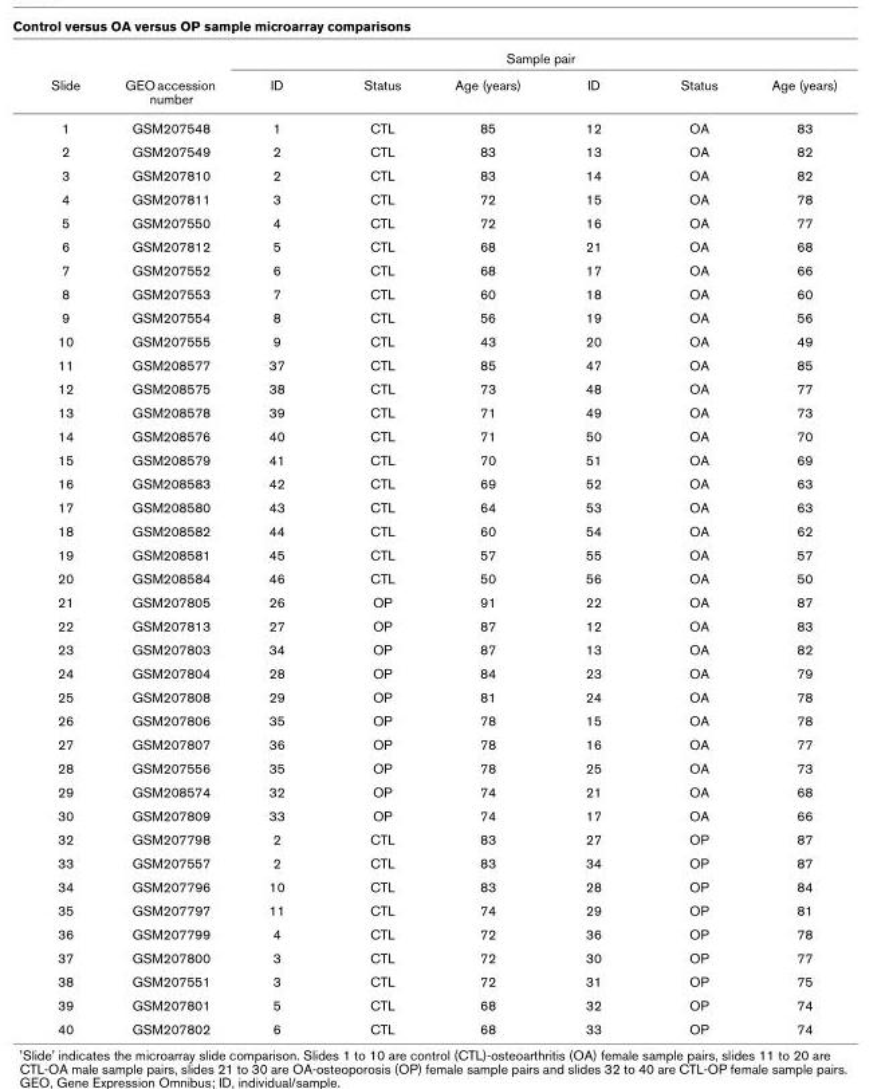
<table><thead><tr><td rowspan="2">Slide</td><td rowspan="2">GEO accession number</td><td colspan="6">Sample pair</td></tr><tr><td>ID</td><td>Status</td><td>Age (years)</td><td>ID</td><td>Status</td><td>Age (years)</td></tr></thead><tbody><tr><td>1</td><td>GSM207548</td><td>1</td><td>CTL</td><td>85</td><td>12</td><td>OA</td><td>83</td></tr><tr><td>2</td><td>GSM207549</td><td>2</td><td>CTL</td><td>83</td><td>13</td><td>OA</td><td>82</td></tr><tr><td>3</td><td>GSM207810</td><td>2</td><td>CTL</td><td>83</td><td>14</td><td>OA</td><td>82</td></tr><tr><td>4</td><td>GSM207811</td><td>3</td><td>CTL</td><td>72</td><td>15</td><td>OA</td><td>78</td></tr><tr><td>5</td><td>GSM207550</td><td>4</td><td>CTL</td><td>72</td><td>16</td><td>OA</td><td>77</td></tr><tr><td>6</td><td>GSM207812</td><td>5</td><td>CTL</td><td>68</td><td>21</td><td>OA</td><td>68</td></tr><tr><td>7</td><td>GSM207552</td><td>6</td><td>CTL</td><td>68</td><td>17</td><td>OA</td><td>66</td></tr><tr><td>8</td><td>GSM207553</td><td>7</td><td>CTL</td><td>60</td><td>18</td><td>OA</td><td>60</td></tr><tr><td>9</td><td>GSM207554</td><td>8</td><td>CTL</td><td>56</td><td>19</td><td>OA</td><td>56</td></tr><tr><td>10</td><td>GSM207555</td><td>9</td><td>CTL</td><td>43</td><td>20</td><td>OA</td><td>49</td></tr><tr><td>11</td><td>GSM208577</td><td>37</td><td>CTL</td><td>85</td><td>47</td><td>OA</td><td>85</td></tr><tr><td>12</td><td>GSM208575</td><td>38</td><td>CTL</td><td>73</td><td>48</td><td>OA</td><td>77</td></tr><tr><td>13</td><td>GSM208578</td><td>39</td><td>CTL</td><td>71</td><td>49</td><td>OA</td><td>73</td></tr><tr><td>14</td><td>GSM208576</td><td>40</td><td>CTL</td><td>71</td><td>50</td><td>OA</td><td>70</td></tr><tr><td>15</td><td>GSM208579</td><td>41</td><td>CTL</td><td>70</td><td>51</td><td>OA</td><td>69</td></tr><tr><td>16</td><td>GSM208583</td><td>42</td><td>CTL</td><td>69</td><td>52</td><td>OA</td><td>63</td></tr><tr><td>17</td><td>GSM208580</td><td>43</td><td>CTL</td><td>64</td><td>53</td><td>OA</td><td>63</td></tr><tr><td>18</td><td>GSM208582</td><td>44</td><td>CTL</td><td>60</td><td>54</td><td>OA</td><td>62</td></tr><tr><td>19</td><td>GSM208581</td><td>45</td><td>CTL</td><td>57</td><td>55</td><td>OA</td><td>57</td></tr><tr><td>20</td><td>GSM208584</td><td>46</td><td>CTL</td><td>50</td><td>56</td><td>OA</td><td>50</td></tr><tr><td>21</td><td>GSM207805</td><td>26</td><td>OP</td><td>91</td><td>22</td><td>OA</td><td>87</td></tr><tr><td>22</td><td>GSM207813</td><td>27</td><td>OP</td><td>87</td><td>12</td><td>OA</td><td>83</td></tr><tr><td>23</td><td>GSM207803</td><td>34</td><td>OP</td><td>87</td><td>13</td><td>OA</td><td>82</td></tr><tr><td>24</td><td>GSM207804</td><td>28</td><td>OP</td><td>84</td><td>23</td><td>OA</td><td>79</td></tr><tr><td>25</td><td>GSM207808</td><td>29</td><td>OP</td><td>81</td><td>24</td><td>OA</td><td>78</td></tr><tr><td>26</td><td>GSM207806</td><td>35</td><td>OP</td><td>78</td><td>15</td><td>OA</td><td>78</td></tr><tr><td>27</td><td>GSM207807</td><td>36</td><td>OP</td><td>78</td><td>16</td><td>OA</td><td>77</td></tr><tr><td>28</td><td>GSM207556</td><td>35</td><td>OP</td><td>78</td><td>25</td><td>OA</td><td>73</td></tr><tr><td>29</td><td>GSM208574</td><td>32</td><td>OP</td><td>74</td><td>21</td><td>OA</td><td>68</td></tr><tr><td>30</td><td>GSM207809</td><td>33</td><td>OP</td><td>74</td><td>17</td><td>OA</td><td>66</td></tr><tr><td>32</td><td>GSM207798</td><td>2</td><td>CTL</td><td>83</td><td>27</td><td>OP</td><td>87</td></tr><tr><td>33</td><td>GSM207557</td><td>2</td><td>CTL</td><td>83</td><td>34</td><td>OP</td><td>87</td></tr><tr><td>34</td><td>GSM207796</td><td>10</td><td>CTL</td><td>83</td><td>28</td><td>OP</td><td>84</td></tr><tr><td>35</td><td>GSM207797</td><td>11</td><td>CTL</td><td>74</td><td>29</td><td>OP</td><td>81</td></tr><tr><td>36</td><td>GSM207799</td><td>4</td><td>CTL</td><td>72</td><td>36</td><td>OP</td><td>78</td></tr><tr><td>37</td><td>GSM207800</td><td>3</td><td>CTL</td><td>72</td><td>30</td><td>OP</td><td>77</td></tr><tr><td>38</td><td>GSM207551</td><td>3</td><td>CTL</td><td>72</td><td>31</td><td>OP</td><td>75</td></tr><tr><td>39</td><td>GSM207801</td><td>5</td><td>CTL</td><td>68</td><td>32</td><td>OP</td><td>74</td></tr><tr><td>40</td><td>GSM207802</td><td>6</td><td>CTL</td><td>68</td><td>33</td><td>OP</td><td>74</td></tr></tbody></table>